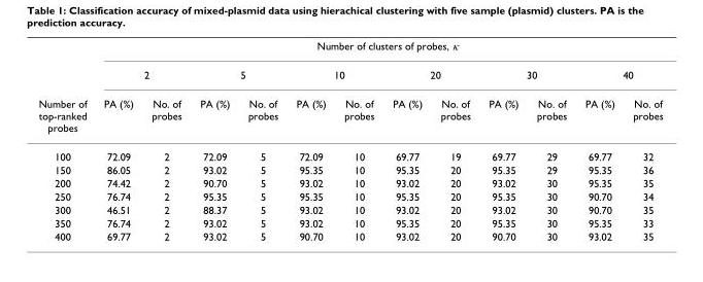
<table><thead><tr><td rowspan="3">Number of top-ranked probes</td><td colspan="12">Number of clusters of probes, κ</td></tr><tr><td colspan="2">2</td><td colspan="2">5</td><td colspan="2">10</td><td colspan="2">20</td><td colspan="2">30</td><td colspan="2">40</td></tr><tr><td>PA (%)</td><td>No. of probes</td><td>PA (%)</td><td>No. of probes</td><td>PA (%)</td><td>No. of probes</td><td>PA (%)</td><td>No. of probes</td><td>PA (%)</td><td>No. of probes</td><td>PA (%)</td><td>No. of probes</td></tr></thead><tbody><tr><td>100</td><td>72.09</td><td>2</td><td>72.09</td><td>5</td><td>72.09</td><td>10</td><td>69.77</td><td>19</td><td>69.77</td><td>29</td><td>69.77</td><td>32</td></tr><tr><td>150</td><td>86.05</td><td>2</td><td>93.02</td><td>5</td><td>95.35</td><td>10</td><td>95.35</td><td>20</td><td>95.35</td><td>29</td><td>95.35</td><td>36</td></tr><tr><td>200</td><td>74.42</td><td>2</td><td>90.70</td><td>5</td><td>93.02</td><td>10</td><td>93.02</td><td>20</td><td>93.02</td><td>30</td><td>95.35</td><td>35</td></tr><tr><td>250</td><td>76.74</td><td>2</td><td>95.35</td><td>5</td><td>95.35</td><td>10</td><td>95.35</td><td>20</td><td>95.35</td><td>30</td><td>90.70</td><td>34</td></tr><tr><td>300</td><td>46.51</td><td>2</td><td>88.37</td><td>5</td><td>93.02</td><td>10</td><td>93.02</td><td>20</td><td>93.02</td><td>30</td><td>90.70</td><td>35</td></tr><tr><td>350</td><td>76.74</td><td>2</td><td>93.02</td><td>5</td><td>93.02</td><td>10</td><td>95.35</td><td>20</td><td>95.35</td><td>30</td><td>95.35</td><td>33</td></tr><tr><td>400</td><td>69.77</td><td>2</td><td>93.02</td><td>5</td><td>90.70</td><td>10</td><td>93.02</td><td>20</td><td>90.70</td><td>30</td><td>93.02</td><td>35</td></tr></tbody></table>